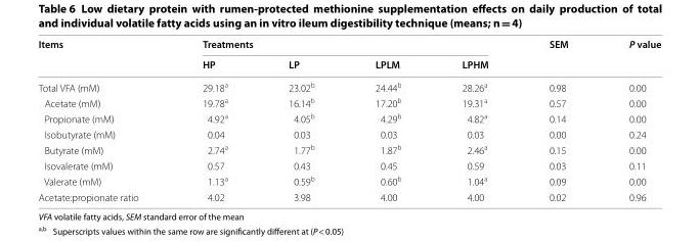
<table><thead><tr><td rowspan="2">Items</td><td colspan="4">Treatments</td><td rowspan="2">SEM</td><td rowspan="2">P value</td></tr><tr><td>HP</td><td>LP</td><td>LPLM</td><td>LPHM</td></tr></thead><tbody><tr><td>Total VFA (mM)</td><td>29.18<sup>a</sup></td><td>23.02<sup>b</sup></td><td>24.44<sup>b</sup></td><td>28.26<sup>a</sup></td><td>0.98</td><td>0.00</td></tr><tr><td>Acetate (mM)</td><td>19.78<sup>a</sup></td><td>16.14<sup>b</sup></td><td>17.20<sup>b</sup></td><td>19.31<sup>a</sup></td><td>0.57</td><td>0.00</td></tr><tr><td>Propionate (mM)</td><td>4.92<sup>a</sup></td><td>4.05<sup>b</sup></td><td>4.29<sup>b</sup></td><td>4.82<sup>a</sup></td><td>0.14</td><td>0.00</td></tr><tr><td>Isobutyrate (mM)</td><td>0.04</td><td>0.03</td><td>0.03</td><td>0.03</td><td>0.00</td><td>0.24</td></tr><tr><td>Butyrate (mM)</td><td>2.74<sup>a</sup></td><td>1.77<sup>b</sup></td><td>1.87<sup>b</sup></td><td>2.46<sup>a</sup></td><td>0.15</td><td>0.00</td></tr><tr><td>Isovalerate (mM)</td><td>0.57</td><td>0.43</td><td>0.45</td><td>0.59</td><td>0.03</td><td>0.11</td></tr><tr><td>Valerate (mM)</td><td>1.13<sup>a</sup></td><td>0.59<sup>b</sup></td><td>0.60<sup>b</sup></td><td>1.04<sup>a</sup></td><td>0.09</td><td>0.00</td></tr><tr><td>Acetate:propionate ratio</td><td>4.02</td><td>3.98</td><td>4.00</td><td>4.00</td><td>0.02</td><td>0.96</td></tr></tbody></table>